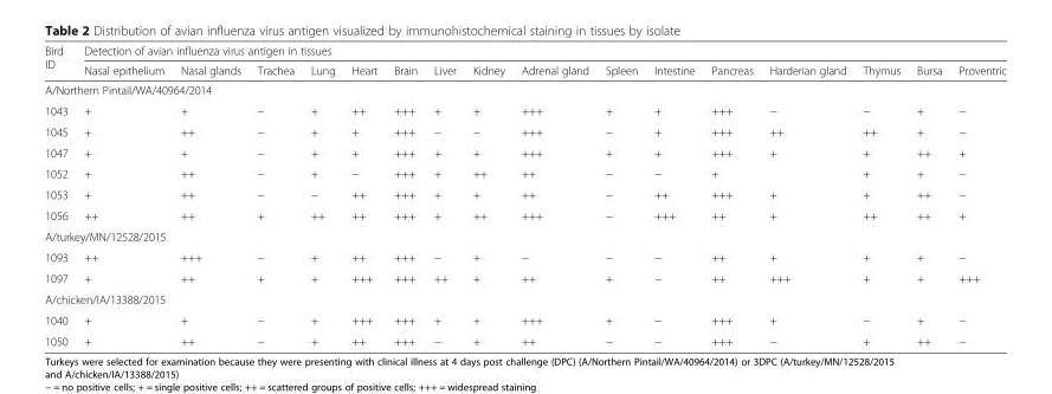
<table><thead><tr><td rowspan="2">Bird ID</td><td colspan="16">Detection of avian influenza virus antigen in tissues</td></tr><tr><td>Nasal epithelium</td><td>Nasal glands</td><td>Trachea</td><td>Lung</td><td>Heart</td><td>Brain</td><td>Liver</td><td>Kidney</td><td>Adrenal gland</td><td>Spleen</td><td>Intestine</td><td>Pancreas</td><td>Harderian gland</td><td>Thymus</td><td>Bursa</td><td>Proventric</td></tr></thead><tbody><tr><td colspan="17">A/Northern Pintail/WA/40964/2014</td></tr><tr><td>1043</td><td>+</td><td>+</td><td>−</td><td>+</td><td>++</td><td>+++</td><td>+</td><td>+</td><td>+++</td><td>+</td><td>+</td><td>+++</td><td>−</td><td>−</td><td>+</td><td>−</td></tr><tr><td>1045</td><td>+</td><td>++</td><td>−</td><td>+</td><td>+</td><td>+++</td><td>−</td><td>−</td><td>+++</td><td>−</td><td>+</td><td>+++</td><td>++</td><td>++</td><td>+</td><td>−</td></tr><tr><td>1047</td><td>+</td><td>+</td><td>−</td><td>+</td><td>+</td><td>+++</td><td>+</td><td>+</td><td>+++</td><td>+</td><td>+</td><td>+++</td><td>+</td><td>+</td><td>++</td><td>+</td></tr><tr><td>1052</td><td>+</td><td>++</td><td>−</td><td>+</td><td>−</td><td>+++</td><td>+</td><td>++</td><td>++</td><td>−</td><td>−</td><td>+</td><td></td><td>+</td><td>+</td><td>−</td></tr><tr><td>1053</td><td>+</td><td>++</td><td>−</td><td>−</td><td>++</td><td>+++</td><td>+</td><td>+</td><td>++</td><td>−</td><td>++</td><td>+++</td><td>+</td><td>+</td><td>++</td><td>−</td></tr><tr><td>1056</td><td>++</td><td>++</td><td>+</td><td>++</td><td>++</td><td>+++</td><td>+</td><td>++</td><td>+++</td><td>−</td><td>+++</td><td>++</td><td>+</td><td>++</td><td>++</td><td>+</td></tr><tr><td colspan="17">A/turkey/MN/12528/2015</td></tr><tr><td>1093</td><td>++</td><td>+++</td><td>−</td><td>+</td><td>++</td><td>+++</td><td>−</td><td>+</td><td>−</td><td>−</td><td>−</td><td>++</td><td>+</td><td>+</td><td>+</td><td>−</td></tr><tr><td>1097</td><td>+</td><td>++</td><td>+</td><td>+</td><td>+++</td><td>+++</td><td>++</td><td>+</td><td>++</td><td>+</td><td>−</td><td>++</td><td>+++</td><td>+</td><td>+</td><td>+++</td></tr><tr><td colspan="17">A/chicken/IA/13388/2015</td></tr><tr><td>1040</td><td>+</td><td>+</td><td>−</td><td>+</td><td>+++</td><td>+++</td><td>+</td><td>+</td><td>+++</td><td>+</td><td>−</td><td>+++</td><td>+</td><td>−</td><td>+</td><td>−</td></tr><tr><td>1050</td><td>+</td><td>++</td><td>−</td><td>+</td><td>++</td><td>+++</td><td>−</td><td>+</td><td>++</td><td>−</td><td>−</td><td>+++</td><td>−</td><td>+</td><td>++</td><td>−</td></tr></tbody></table>